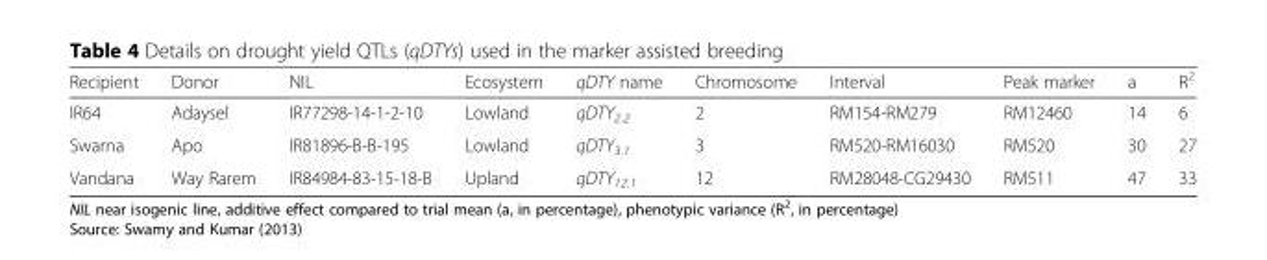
<table><thead><tr><td>Recipient</td><td>Donor</td><td>NIL</td><td>Ecosystem</td><td>qDTY name</td><td>Chromosome</td><td>Interval</td><td>Peak marker</td><td>a</td><td>R<sup>2</sup></td></tr></thead><tbody><tr><td>IR64</td><td>Adaysel</td><td>IR77298-14-1-2-10</td><td>Lowland</td><td>qDTY<sub>2.2</sub></td><td>2</td><td>RM154-RM279</td><td>RM12460</td><td>14</td><td>6</td></tr><tr><td>Swarna</td><td>Apo</td><td>IR81896-B-B-195</td><td>Lowland</td><td>qDTY<sub>3.1</sub></td><td>3</td><td>RM520-RM16030</td><td>RM520</td><td>30</td><td>27</td></tr><tr><td>Vandana</td><td>Way Rarem</td><td>IR84984-83-15-18-B</td><td>Upland</td><td>qDTY<sub>12.1</sub></td><td>12</td><td>RM28048-CG29430</td><td>RM511</td><td>47</td><td>33</td></tr></tbody></table>